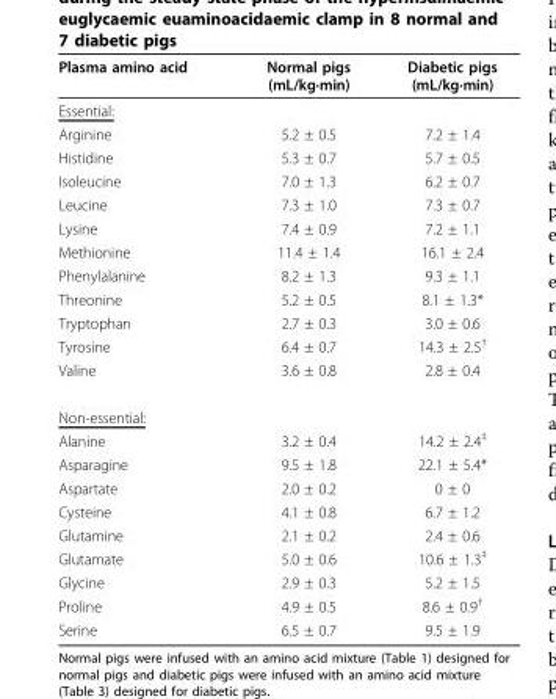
<table><thead><tr><td>Plasma amino acid</td><td>Normal pigs (mL/kg·min)</td><td>Diabetic pigs (mL/kg·min)</td></tr></thead><tbody><tr><td colspan="3">Essential:</td></tr><tr><td>Arginine</td><td>5.2 ± 0.5</td><td>7.2 ± 1.4</td></tr><tr><td>Histidine</td><td>5.3 ± 0.7</td><td>5.7 ± 0.5</td></tr><tr><td>Isoleucine</td><td>7.0 ± 1.3</td><td>6.2 ± 0.7</td></tr><tr><td>Leucine</td><td>7.3 ± 1.0</td><td>7.3 ± 0.7</td></tr><tr><td>Lysine</td><td>7.4 ± 0.9</td><td>7.2 ± 1.1</td></tr><tr><td>Methionine</td><td>11.4 ± 1.4</td><td>16.1 ± 2.4</td></tr><tr><td>Phenylalanine</td><td>8.2 ± 1.3</td><td>9.3 ± 1.1</td></tr><tr><td>Threonine</td><td>5.2 ± 0.5</td><td>8.1 ± 1.3*</td></tr><tr><td>Tryptophan</td><td>2.7 ± 0.3</td><td>3.0 ± 0.6</td></tr><tr><td>Tyrosine</td><td>6.4 ± 0.7</td><td>14.3 ± 2.5<sup>†</sup></td></tr><tr><td>Valine</td><td>3.6 ± 0.8</td><td>2.8 ± 0.4</td></tr><tr><td colspan="3">Non-essential:</td></tr><tr><td>Alanine</td><td>3.2 ± 0.4</td><td>14.2 ± 2.4<sup>‡</sup></td></tr><tr><td>Asparagine</td><td>9.5 ± 1.8</td><td>22.1 ± 5.4*</td></tr><tr><td>Aspartate</td><td>2.0 ± 0.2</td><td>0 ± 0</td></tr><tr><td>Cysteine</td><td>4.1 ± 0.8</td><td>6.7 ± 1.2</td></tr><tr><td>Glutamine</td><td>2.1 ± 0.2</td><td>2.4 ± 0.6</td></tr><tr><td>Glutamate</td><td>5.0 ± 0.6</td><td>10.6 ± 1.3<sup>‡</sup></td></tr><tr><td>Glycine</td><td>2.9 ± 0.3</td><td>5.2 ± 1.5</td></tr><tr><td>Proline</td><td>4.9 ± 0.5</td><td>8.6 ± 0.9<sup>†</sup></td></tr><tr><td>Serine</td><td>6.5 ± 0.7</td><td>9.5 ± 1.9</td></tr></tbody></table>